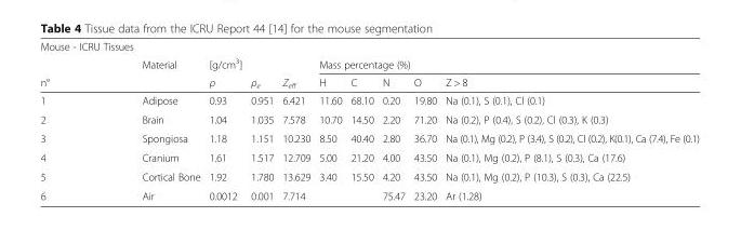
<table><thead><tr><td rowspan="3">Mouse - ICRU Tissues n°</td><td rowspan="3">Material</td><td rowspan="3">[g/cm<sup>3</sup>] ρ</td><td rowspan="3">ρ<sub>e</sub></td><td rowspan="3">Z<sub>eff</sub></td><td></td><td></td><td></td><td></td><td></td></tr><tr><td colspan="5">Mass percentage (%)</td></tr><tr><td>H</td><td>C</td><td>N</td><td>O</td><td>Z &gt; 8</td></tr></thead><tbody><tr><td>1</td><td>Adipose</td><td>0.93</td><td>0.951</td><td>6.421</td><td>11.60</td><td>68.10</td><td>0.20</td><td>19.80</td><td>Na (0.1), S (0.1), Cl (0.1)</td></tr><tr><td>2</td><td>Brain</td><td>1.04</td><td>1.035</td><td>7.578</td><td>10.70</td><td>14.50</td><td>2.20</td><td>71.20</td><td>Na (0.2), P (0.4), S (0.2), Cl (0.3), K (0.3)</td></tr><tr><td>3</td><td>Spongiosa</td><td>1.18</td><td>1.151</td><td>10.230</td><td>8.50</td><td>40.40</td><td>2.80</td><td>36.70</td><td>Na (0.1), Mg (0.2), P (3.4), S (0.2), Cl (0.2), K(0.1), Ca (7.4), Fe (0.1)</td></tr><tr><td>4</td><td>Cranium</td><td>1.61</td><td>1.517</td><td>12.709</td><td>5.00</td><td>21.20</td><td>4.00</td><td>43.50</td><td>Na (0.1), Mg (0.2), P (8.1), S (0.3), Ca (17.6)</td></tr><tr><td>5</td><td>Cortical Bone</td><td>1.92</td><td>1.780</td><td>13.629</td><td>3.40</td><td>15.50</td><td>4.20</td><td>43.50</td><td>Na (0.1), Mg (0.2), P (10.3), S (0.3), Ca (22.5)</td></tr><tr><td>6</td><td>Air</td><td>0.0012</td><td>0.001</td><td>7.714</td><td></td><td></td><td>75.47</td><td>23.20</td><td>Ar (1.28)</td></tr></tbody></table>